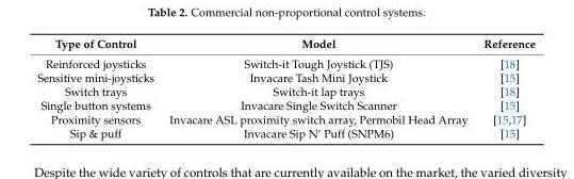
<table><thead><tr><td>Type of Control</td><td>Model</td><td>Reference</td></tr></thead><tbody><tr><td>Reinforced joysticks</td><td>Switch-it Tough Joystick (TJS)</td><td>[18]</td></tr><tr><td>Sensitive mini-joysticks</td><td>Invacare Tash Mini Joystick</td><td>[15]</td></tr><tr><td>Switch trays</td><td>Switch-it lap trays</td><td>[18]</td></tr><tr><td>Single button systems</td><td>Invacare Single Switch Scanner</td><td>[15]</td></tr><tr><td>Proximity sensors</td><td>Invacare ASL proximity switch array, Permobil Head Array</td><td>[15,17]</td></tr><tr><td>Sip &amp; puff</td><td>Invacare Sip N’ Puff (SNPM6)</td><td>[15]</td></tr></tbody></table>